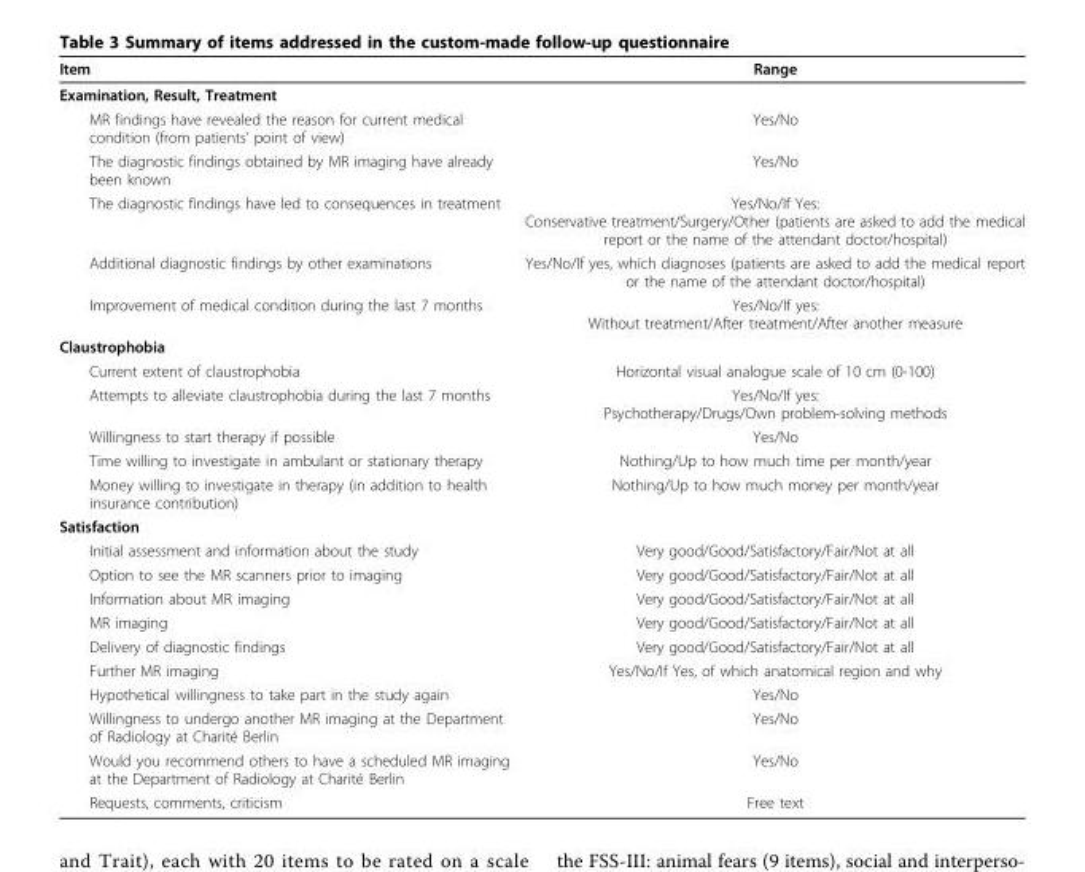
<table><thead><tr><td>Item</td><td>Range</td></tr></thead><tbody><tr><td colspan="2">Examination, Result, Treatment</td></tr><tr><td>MR findings have revealed the reason for current medical condition (from patients’ point of view)</td><td>Yes/No</td></tr><tr><td>The diagnostic findings obtained by MR imaging have already been known</td><td>Yes/No</td></tr><tr><td>The diagnostic findings have led to consequences in treatment</td><td>Yes/No/If Yes: Conservative treatment/Surgery/Other (patients are asked to add the medical report or the name of the attendant doctor/hospital)</td></tr><tr><td>Additional diagnostic findings by other examinations</td><td>Yes/No/If yes, which diagnoses (patients are asked to add the medical report or the name of the attendant doctor/hospital)</td></tr><tr><td>Improvement of medical condition during the last 7 months</td><td>Yes/No/If yes: Without treatment/After treatment/After another measure</td></tr><tr><td colspan="2">Claustrophobia</td></tr><tr><td>Current extent of claustrophobia</td><td>Horizontal visual analogue scale of 10 cm (0-100)</td></tr><tr><td>Attempts to alleviate claustrophobia during the last 7 months</td><td>Yes/No/If yes: Psychotherapy/Drugs/Own problem-solving methods</td></tr><tr><td>Willingness to start therapy if possible</td><td>Yes/No</td></tr><tr><td>Time willing to investigate in ambulant or stationary therapy</td><td>Nothing/Up to how much time per month/year</td></tr><tr><td>Money willing to investigate in therapy (in addition to health insurance contribution)</td><td>Nothing/Up to how much money per month/year</td></tr><tr><td colspan="2">Satisfaction</td></tr><tr><td>Initial assessment and information about the study</td><td>Very good/Good/Satisfactory/Fair/Not at all</td></tr><tr><td>Option to see the MR scanners prior to imaging</td><td>Very good/Good/Satisfactory/Fair/Not at all</td></tr><tr><td>Information about MR imaging</td><td>Very good/Good/Satisfactory/Fair/Not at all</td></tr><tr><td>MR imaging</td><td>Very good/Good/Satisfactory/Fair/Not at all</td></tr><tr><td>Delivery of diagnostic findings</td><td>Very good/Good/Satisfactory/Fair/Not at all</td></tr><tr><td>Further MR imaging</td><td>Yes/No/If Yes, of which anatomical region and why</td></tr><tr><td>Hypothetical willingness to take part in the study again</td><td>Yes/No</td></tr><tr><td>Willingness to undergo another MR imaging at the Department of Radiology at Charité Berlin</td><td>Yes/No</td></tr><tr><td>Would you recommend others to have a scheduled MR imaging at the Department of Radiology at Charité Berlin</td><td>Yes/No</td></tr><tr><td>Requests, comments, criticism</td><td>Free text</td></tr></tbody></table>